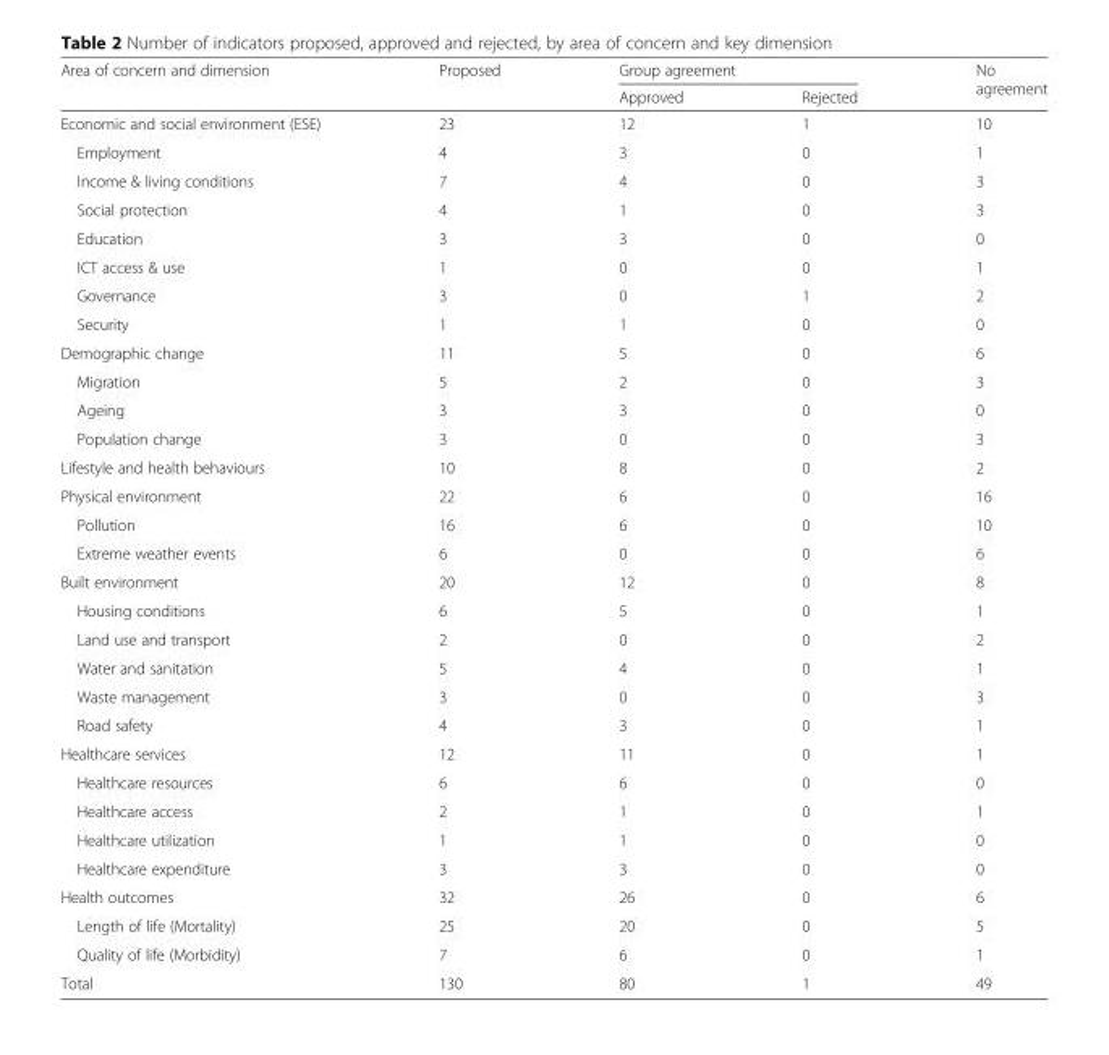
<table><thead><tr><td rowspan="2">Area of concern and dimension</td><td rowspan="2">Proposed</td><td colspan="2">Group agreement</td><td rowspan="2">No agreement</td></tr><tr><td>Approved</td><td>Rejected</td></tr></thead><tbody><tr><td>Economic and social environment (ESE)</td><td>23</td><td>12</td><td>1</td><td>10</td></tr><tr><td>Employment</td><td>4</td><td>3</td><td>0</td><td>1</td></tr><tr><td>Income &amp; living conditions</td><td>7</td><td>4</td><td>0</td><td>3</td></tr><tr><td>Social protection</td><td>4</td><td>1</td><td>0</td><td>3</td></tr><tr><td>Education</td><td>3</td><td>3</td><td>0</td><td>0</td></tr><tr><td>ICT access &amp; use</td><td>1</td><td>0</td><td>0</td><td>1</td></tr><tr><td>Governance</td><td>3</td><td>0</td><td>1</td><td>2</td></tr><tr><td>Security</td><td>1</td><td>1</td><td>0</td><td>0</td></tr><tr><td>Demographic change</td><td>11</td><td>5</td><td>0</td><td>6</td></tr><tr><td>Migration</td><td>5</td><td>2</td><td>0</td><td>3</td></tr><tr><td>Ageing</td><td>3</td><td>3</td><td>0</td><td>0</td></tr><tr><td>Population change</td><td>3</td><td>0</td><td>0</td><td>3</td></tr><tr><td>Lifestyle and health behaviours</td><td>10</td><td>8</td><td>0</td><td>2</td></tr><tr><td>Physical environment</td><td>22</td><td>6</td><td>0</td><td>16</td></tr><tr><td>Pollution</td><td>16</td><td>6</td><td>0</td><td>10</td></tr><tr><td>Extreme weather events</td><td>6</td><td>0</td><td>0</td><td>6</td></tr><tr><td>Built environment</td><td>20</td><td>12</td><td>0</td><td>8</td></tr><tr><td>Housing conditions</td><td>6</td><td>5</td><td>0</td><td>1</td></tr><tr><td>Land use and transport</td><td>2</td><td>0</td><td>0</td><td>2</td></tr><tr><td>Water and sanitation</td><td>5</td><td>4</td><td>0</td><td>1</td></tr><tr><td>Waste management</td><td>3</td><td>0</td><td>0</td><td>3</td></tr><tr><td>Road safety</td><td>4</td><td>3</td><td>0</td><td>1</td></tr><tr><td>Healthcare services</td><td>12</td><td>11</td><td>0</td><td>1</td></tr><tr><td>Healthcare resources</td><td>6</td><td>6</td><td>0</td><td>0</td></tr><tr><td>Healthcare access</td><td>2</td><td>1</td><td>0</td><td>1</td></tr><tr><td>Healthcare utilization</td><td>1</td><td>1</td><td>0</td><td>0</td></tr><tr><td>Healthcare expenditure</td><td>3</td><td>3</td><td>0</td><td>0</td></tr><tr><td>Health outcomes</td><td>32</td><td>26</td><td>0</td><td>6</td></tr><tr><td>Length of life (Mortality)</td><td>25</td><td>20</td><td>0</td><td>5</td></tr><tr><td>Quality of life (Morbidity)</td><td>7</td><td>6</td><td>0</td><td>1</td></tr><tr><td>Total</td><td>130</td><td>80</td><td>1</td><td>49</td></tr></tbody></table>